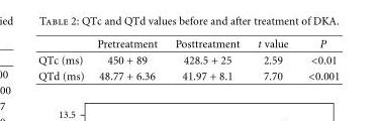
<table><thead><tr><td></td><td>Pretreatment</td><td>Posttreatment</td><td>t value</td><td>P</td></tr></thead><tbody><tr><td>QTc (ms)</td><td>450 + 89</td><td>428.5 + 25</td><td>2.59</td><td>&lt;0.01</td></tr><tr><td>QTd (ms)</td><td>48.77 + 6.36</td><td>41.97 + 8.1</td><td>7.70</td><td>&lt;0.001</td></tr></tbody></table>